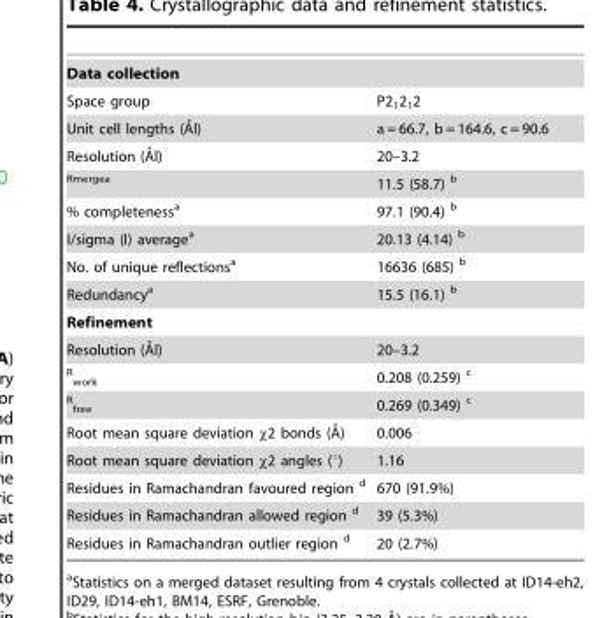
<table><tbody><tr><td colspan="2">Data collection</td></tr><tr><td>Space group</td><td>P2<sub>1</sub>2<sub>1</sub>2</td></tr><tr><td>Unit cell lengths (A˚l)</td><td>a = 66.7, b = 164.6, c = 90.6</td></tr><tr><td>Resolution (A˚l)</td><td>20–3.2</td></tr><tr><td><sup>Rmergea</sup></td><td>11.5 (58.7) b</td></tr><tr><td>% completeness<sup>a</sup></td><td>97.1 (90.4) b</td></tr><tr><td>I/sigma (I) average<sup>a</sup></td><td>20.13 (4.14) b</td></tr><tr><td>No. of unique reflections<sup>a</sup></td><td>16636 (685) b</td></tr><tr><td>Redundancy<sup>a</sup></td><td>15.5 (16.1) b</td></tr><tr><td colspan="2">Refinement</td></tr><tr><td>Resolution (A˚l)</td><td>20–3.2</td></tr><tr><td><sup>R</sup> <sub>work</sub></td><td>0.208 (0.259) c</td></tr><tr><td><sup>R</sup> <sub>free</sub></td><td>0.269 (0.349) c</td></tr><tr><td>Root mean square deviation x2 bonds (A˚)</td><td>0.006</td></tr><tr><td>Root mean square deviation χ2 angles (°)</td><td>1.16</td></tr><tr><td>Residues in Ramachandran favoured region d</td><td>670 (91.9%)</td></tr><tr><td>Residues in Ramachandran allowed region d</td><td>39 (5.3%)</td></tr><tr><td>Residues in Ramachandran outlier region d</td><td>20 (2.7%)</td></tr></tbody></table>